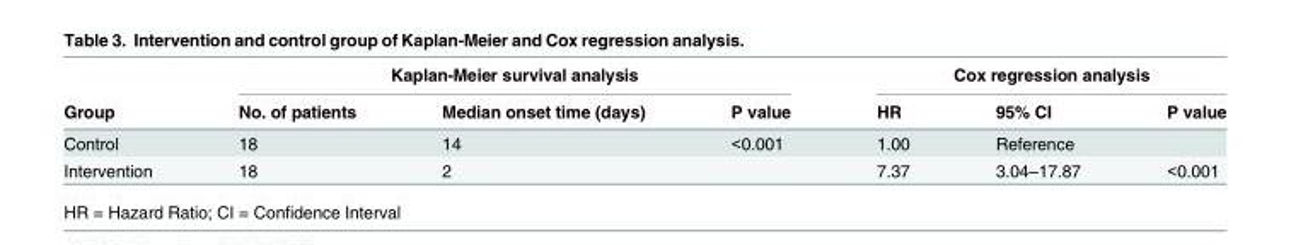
<table><thead><tr><td rowspan="2">Group</td><td colspan="3">Kaplan-Meier survival analysis</td><td colspan="3">Cox regression analysis</td></tr><tr><td>No. of patients</td><td>Median onset time (days)</td><td>P value</td><td>HR</td><td>95% CI</td><td>P value</td></tr></thead><tbody><tr><td>Control</td><td>18</td><td>14</td><td>&lt;0.001</td><td>1.00</td><td>Reference</td><td></td></tr><tr><td>Intervention</td><td>18</td><td>2</td><td></td><td>7.37</td><td>3.04–17.87</td><td>&lt;0.001</td></tr></tbody></table>